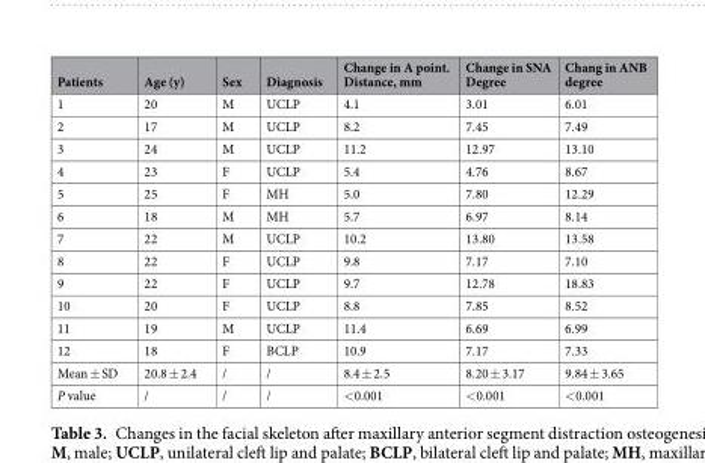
<table><thead><tr><td>Patients</td><td>Age (y)</td><td>Sex</td><td>Diagnosis</td><td>Change in A point. Distance, mm</td><td>Change in SNA Degree</td><td>Chang in ANB degree</td></tr></thead><tbody><tr><td>1</td><td>20</td><td>M</td><td>UCLP</td><td>4.1</td><td>3.01</td><td>6.01</td></tr><tr><td>2</td><td>17</td><td>M</td><td>UCLP</td><td>8.2</td><td>7.45</td><td>7.49</td></tr><tr><td>3</td><td>24</td><td>M</td><td>UCLP</td><td>11.2</td><td>12.97</td><td>13.10</td></tr><tr><td>4</td><td>23</td><td>F</td><td>UCLP</td><td>5.4</td><td>4.76</td><td>8.67</td></tr><tr><td>5</td><td>25</td><td>F</td><td>MH</td><td>5.0</td><td>7.80</td><td>12.29</td></tr><tr><td>6</td><td>18</td><td>M</td><td>MH</td><td>5.7</td><td>6.97</td><td>8.14</td></tr><tr><td>7</td><td>22</td><td>M</td><td>UCLP</td><td>10.2</td><td>13.80</td><td>13.58</td></tr><tr><td>8</td><td>22</td><td>F</td><td>UCLP</td><td>9.8</td><td>7.17</td><td>7.10</td></tr><tr><td>9</td><td>22</td><td>F</td><td>UCLP</td><td>9.7</td><td>12.78</td><td>18.83</td></tr><tr><td>10</td><td>20</td><td>F</td><td>UCLP</td><td>8.8</td><td>7.85</td><td>8.52</td></tr><tr><td>11</td><td>19</td><td>M</td><td>UCLP</td><td>11.4</td><td>6.69</td><td>6.99</td></tr><tr><td>12</td><td>18</td><td>F</td><td>BCLP</td><td>10.9</td><td>7.17</td><td>7.33</td></tr><tr><td>Mean ± SD</td><td>20.8 ± 2.4</td><td>/</td><td>/</td><td>8.4 ± 2.5</td><td>8.20 ± 3.17</td><td>9.84 ± 3.65</td></tr><tr><td>P value</td><td>/</td><td>/</td><td>/</td><td>&lt;0.001</td><td>&lt;0.001</td><td>&lt;0.001</td></tr></tbody></table>